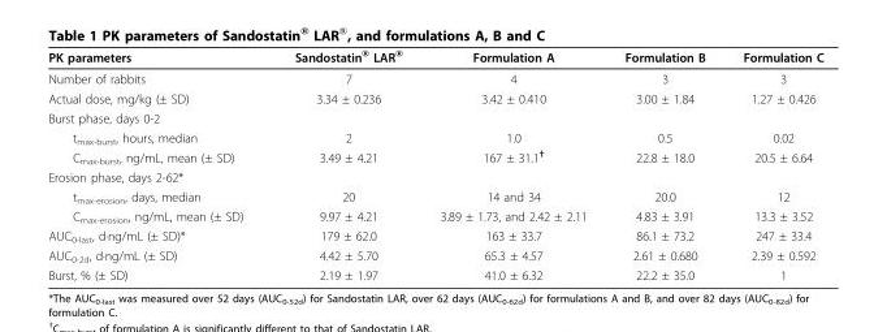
<table><thead><tr><td>PK parameters</td><td>Sandostatin® LAR<sup>®</sup></td><td>Formulation A</td><td>Formulation B</td><td>Formulation C</td></tr></thead><tbody><tr><td>Number of rabbits</td><td>7</td><td>4</td><td>3</td><td>3</td></tr><tr><td>Actual dose, mg/kg (± SD)</td><td>3.34 ± 0.236</td><td>3.42 ± 0.410</td><td>3.00 ± 1.84</td><td>1.27 ± 0.426</td></tr><tr><td colspan="5">Burst phase, days 0-2</td></tr><tr><td>t<sub>max-burst</sub>, hours, median</td><td>2</td><td>1.0</td><td>0.5</td><td>0.02</td></tr><tr><td>C<sub>max-burst</sub>, ng/mL, mean (± SD)</td><td>3.49 ± 4.21</td><td>167 ± 31.1<sup>†</sup></td><td>22.8 ± 18.0</td><td>20.5 ± 6.64</td></tr><tr><td colspan="5">Erosion phase, days 2-62*</td></tr><tr><td>t<sub>max-erosion</sub>, days, median</td><td>20</td><td>14 and 34</td><td>20.0</td><td>12</td></tr><tr><td>C<sub>max-erosion</sub>, ng/mL, mean (± SD)</td><td>9.97 ± 4.21</td><td>3.89 ± 1.73, and 2.42 ± 2.11</td><td>4.83 ± 3.91</td><td>13.3 ± 3.52</td></tr><tr><td>AUC<sub>0-last</sub>, d·ng/mL (± SD)*</td><td>179 ± 62.0</td><td>163 ± 33.7</td><td>86.1 ± 73.2</td><td>247 ± 33.4</td></tr><tr><td>AUC<sub>0-2d</sub>, d·ng/mL (± SD)</td><td>4.42 ± 5.70</td><td>65.3 ± 4.57</td><td>2.61 ± 0.680</td><td>2.39 ± 0.592</td></tr><tr><td>Burst, % (± SD)</td><td>2.19 ± 1.97</td><td>41.0 ± 6.32</td><td>22.2 ± 35.0</td><td>1</td></tr></tbody></table>